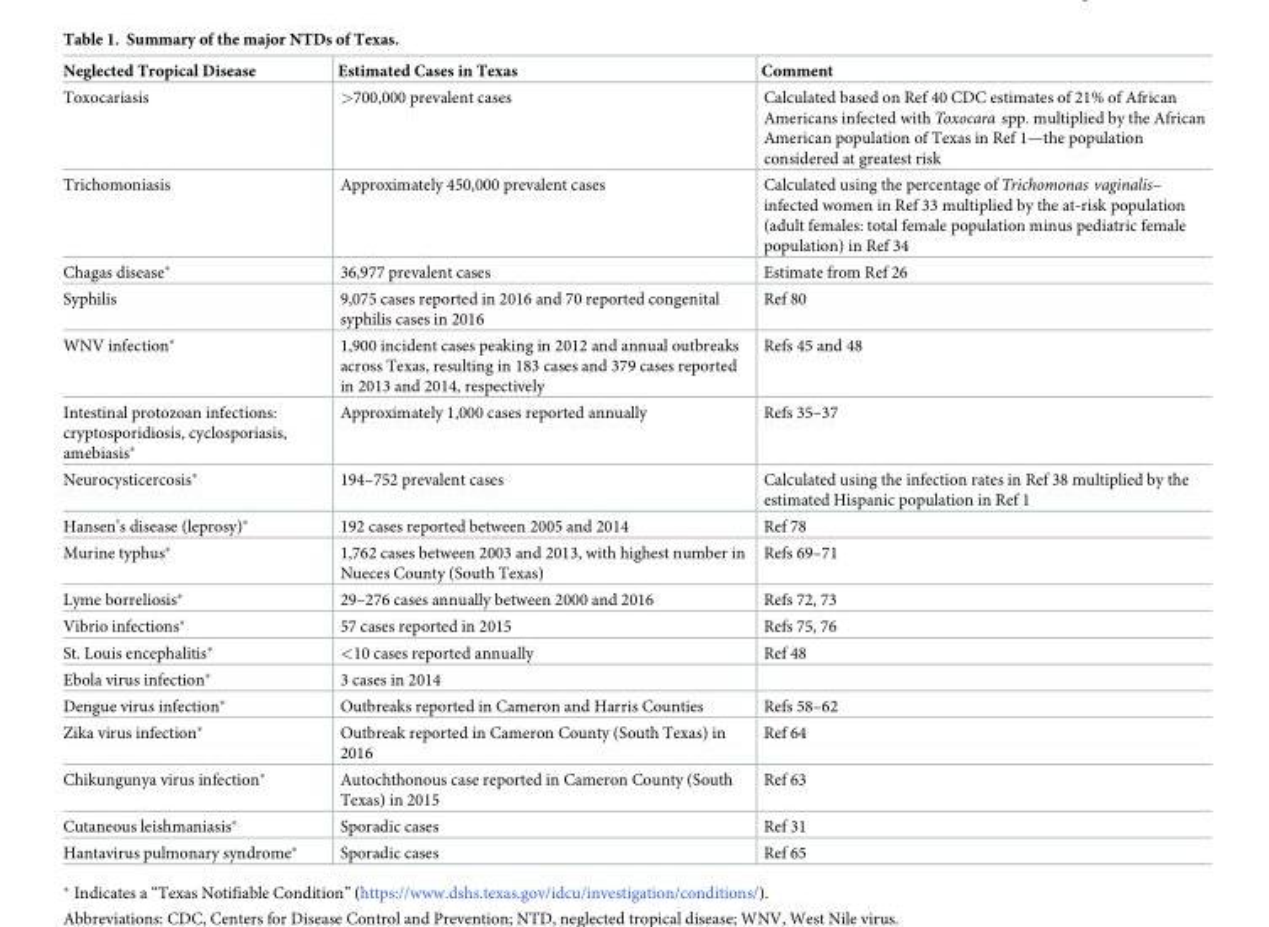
<table><thead><tr><td>Neglected Tropical Disease</td><td>Estimated Cases in Texas</td><td>Comment</td></tr></thead><tbody><tr><td>Toxocariasis</td><td>&gt;700,000 prevalent cases</td><td>Calculated based on Ref 40 CDC estimates of 21% of African Americans infected with Toxocara spp. multiplied by the African American population of Texas in Ref 1—the population considered at greatest risk</td></tr><tr><td>Trichomoniasis</td><td>Approximately 450,000 prevalent cases</td><td>Calculated using the percentage of Trichomonas vaginalis– infected women in Ref 33 multiplied by the at-risk population (adult females: total female population minus pediatric female population) in Ref 34</td></tr><tr><td>Chagas disease*</td><td>36,977 prevalent cases</td><td>Estimate from Ref 26</td></tr><tr><td>Syphilis</td><td>9,075 cases reported in 2016 and 70 reported congenital syphilis cases in 2016</td><td>Ref 80</td></tr><tr><td>WNV infection*</td><td>1,900 incident cases peaking in 2012 and annual outbreaks across Texas, resulting in 183 cases and 379 cases reported in 2013 and 2014, respectively</td><td>Refs 45 and 48</td></tr><tr><td>Intestinal protozoan infections: cryptosporidiosis, cyclosporiasis, amebiasis*</td><td>Approximately 1,000 cases reported annually</td><td>Refs 35–37</td></tr><tr><td>Neurocysticercosis*</td><td>194–752 prevalent cases</td><td>Calculated using the infection rates in Ref 38 multiplied by the estimated Hispanic population in Ref 1</td></tr><tr><td>Hansen’s disease (leprosy)*</td><td>192 cases reported between 2005 and 2014</td><td>Ref 78</td></tr><tr><td>Murine typhus*</td><td>1,762 cases between 2003 and 2013, with highest number in Nueces County (South Texas)</td><td>Refs 69–71</td></tr><tr><td>Lyme borreliosis*</td><td>29–276 cases annually between 2000 and 2016</td><td>Refs 72, 73</td></tr><tr><td>Vibrio infections*</td><td>57 cases reported in 2015</td><td>Refs 75, 76</td></tr><tr><td>St. Louis encephalitis*</td><td>&lt;10 cases reported annually</td><td>Ref 48</td></tr><tr><td>Ebola virus infection*</td><td>3 cases in 2014</td><td></td></tr><tr><td>Dengue virus infection*</td><td>Outbreaks reported in Cameron and Harris Counties</td><td>Refs 58–62</td></tr><tr><td>Zika virus infection*</td><td>Outbreak reported in Cameron County (South Texas) in 2016</td><td>Ref 64</td></tr><tr><td>Chikungunya virus infection*</td><td>Autochthonous case reported in Cameron County (South Texas) in 2015</td><td>Ref 63</td></tr><tr><td>Cutaneous leishmaniasis*</td><td>Sporadic cases</td><td>Ref 31</td></tr><tr><td>Hantavirus pulmonary syndrome*</td><td>Sporadic cases</td><td>Ref 65</td></tr></tbody></table>